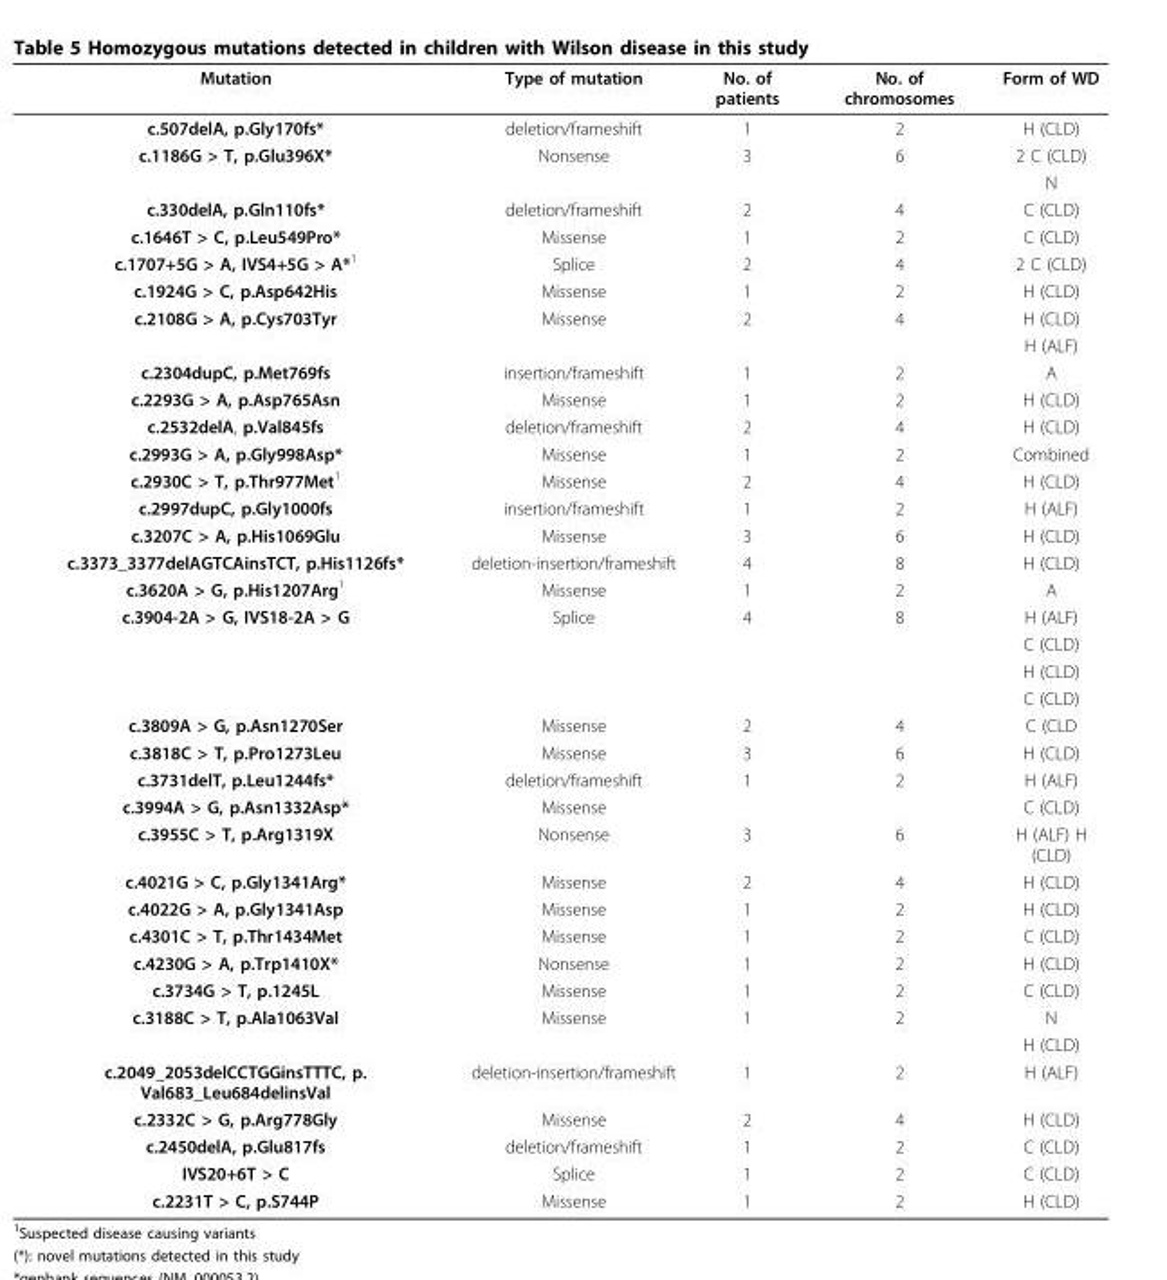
<table><thead><tr><td>Mutation</td><td>Type of mutation</td><td>No. of patients</td><td>No. of chromosomes</td><td>Form of WD</td></tr></thead><tbody><tr><td>c.507delA, p.Gly170fs*</td><td>deletion/frameshift</td><td>1</td><td>2</td><td>H (CLD)</td></tr><tr><td rowspan="2">c.1186G &gt; T, p.Glu396X*</td><td>Nonsense</td><td>3</td><td>6</td><td>2 C (CLD)</td></tr><tr><td></td><td></td><td></td><td>N</td></tr><tr><td>c.330delA, p.Gln110fs*</td><td>deletion/frameshift</td><td>2</td><td>4</td><td>C (CLD)</td></tr><tr><td>c.1646T &gt; C, p.Leu549Pro*</td><td>Missense</td><td>1</td><td>2</td><td>C (CLD)</td></tr><tr><td>c.1707+5G &gt; A, IVS4+5G &gt; A*<sup>1</sup></td><td>Splice</td><td>2</td><td>4</td><td>2 C (CLD)</td></tr><tr><td>c.1924G &gt; C, p.Asp642His</td><td>Missense</td><td>1</td><td>2</td><td>H (CLD)</td></tr><tr><td rowspan="2">c.2108G &gt; A, p.Cys703Tyr</td><td>Missense</td><td>2</td><td>4</td><td>H (CLD)</td></tr><tr><td></td><td></td><td></td><td>H (ALF)</td></tr><tr><td>c.2304dupC, p.Met769fs</td><td>insertion/frameshift</td><td>1</td><td>2</td><td>A</td></tr><tr><td>c.2293G &gt; A, p.Asp765Asn</td><td>Missense</td><td>1</td><td>2</td><td>H (CLD)</td></tr><tr><td>c.2532delA, p.Val845fs</td><td>deletion/frameshift</td><td>2</td><td>4</td><td>H (CLD)</td></tr><tr><td>c.2993G &gt; A, p.Gly998Asp*</td><td>Missense</td><td>1</td><td>2</td><td>Combined</td></tr><tr><td>c.2930C &gt; T, p.Thr977Met<sup>1</sup></td><td>Missense</td><td>2</td><td>4</td><td>H (CLD)</td></tr><tr><td>c.2997dupC, p.Gly1000fs</td><td>insertion/frameshift</td><td>1</td><td>2</td><td>H (ALF)</td></tr><tr><td>c.3207C &gt; A, p.His1069Glu</td><td>Missense</td><td>3</td><td>6</td><td>H (CLD)</td></tr><tr><td>c.3373_3377delAGTCAinsTCT, p.His1126fs*</td><td>deletion-insertion/frameshift</td><td>4</td><td>8</td><td>H (CLD)</td></tr><tr><td>c.3620A &gt; G, p.His1207Arg<sup>1</sup></td><td>Missense</td><td>1</td><td>2</td><td>A</td></tr><tr><td rowspan="4">c.3904-2A &gt; G, IVS18-2A &gt; G</td><td>Splice</td><td>4</td><td>8</td><td>H (ALF)</td></tr><tr><td></td><td></td><td></td><td>C (CLD)</td></tr><tr><td></td><td></td><td></td><td>H (CLD)</td></tr><tr><td></td><td></td><td></td><td>C (CLD)</td></tr><tr><td>c.3809A &gt; G, p.Asn1270Ser</td><td>Missense</td><td>2</td><td>4</td><td>C (CLD</td></tr><tr><td>c.3818C &gt; T, p.Pro1273Leu</td><td>Missense</td><td>3</td><td>6</td><td>H (CLD)</td></tr><tr><td>c.3731delT, p.Leu1244fs*</td><td>deletion/frameshift</td><td>1</td><td>2</td><td>H (ALF)</td></tr><tr><td>c.3994A &gt; G, p.Asn1332Asp*</td><td>Missense</td><td></td><td></td><td>C (CLD)</td></tr><tr><td>c.3955C &gt; T, p.Arg1319X</td><td>Nonsense</td><td>3</td><td>6</td><td>H (ALF) H (CLD)</td></tr><tr><td>c.4021G &gt; C, p.Gly1341Arg*</td><td>Missense</td><td>2</td><td>4</td><td>H (CLD)</td></tr><tr><td>c.4022G &gt; A, p.Gly1341Asp</td><td>Missense</td><td>1</td><td>2</td><td>H (CLD)</td></tr><tr><td>c.4301C &gt; T, p.Thr1434Met</td><td>Missense</td><td>1</td><td>2</td><td>C (CLD)</td></tr><tr><td>c.4230G &gt; A, p.Trp1410X*</td><td>Nonsense</td><td>1</td><td>2</td><td>H (CLD)</td></tr><tr><td>c.3734G &gt; T, p.1245L</td><td>Missense</td><td>1</td><td>2</td><td>C (CLD)</td></tr><tr><td rowspan="2">c.3188C &gt; T, p.Ala1063Val</td><td>Missense</td><td>1</td><td>2</td><td>N</td></tr><tr><td></td><td></td><td></td><td>H (CLD)</td></tr><tr><td>c.2049_2053delCCTGGinsTTTC, p. Val683_Leu684delinsVal</td><td>deletion-insertion/frameshift</td><td>1</td><td>2</td><td>H (ALF)</td></tr><tr><td>c.2332C &gt; G, p.Arg778Gly</td><td>Missense</td><td>2</td><td>4</td><td>H (CLD)</td></tr><tr><td>c.2450delA, p.Glu817fs</td><td>deletion/frameshift</td><td>1</td><td>2</td><td>C (CLD)</td></tr><tr><td>IVS20+6T &gt; C</td><td>Splice</td><td>1</td><td>2</td><td>C (CLD)</td></tr><tr><td>c.2231T &gt; C, p.S744P</td><td>Missense</td><td>1</td><td>2</td><td>H (CLD)</td></tr></tbody></table>